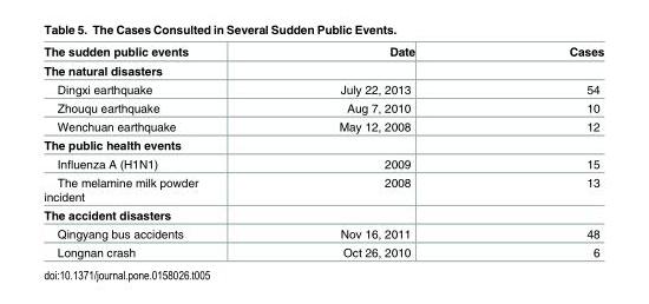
<table><thead><tr><td>The sudden public events</td><td>Date</td><td>Cases</td></tr></thead><tbody><tr><td colspan="3">The natural disasters</td></tr><tr><td>Dingxi earthquake</td><td>July 22, 2013</td><td>54</td></tr><tr><td>Zhouqu earthquake</td><td>Aug 7, 2010</td><td>10</td></tr><tr><td>Wenchuan earthquake</td><td>May 12, 2008</td><td>12</td></tr><tr><td colspan="3">The public health events</td></tr><tr><td>Influenza A (H1N1)</td><td>2009</td><td>15</td></tr><tr><td>The melamine milk powder incident</td><td>2008</td><td>13</td></tr><tr><td colspan="3">The accident disasters</td></tr><tr><td>Qingyang bus accidents</td><td>Nov 16, 2011</td><td>48</td></tr><tr><td>Longnan crash</td><td>Oct 26, 2010</td><td>6</td></tr></tbody></table>